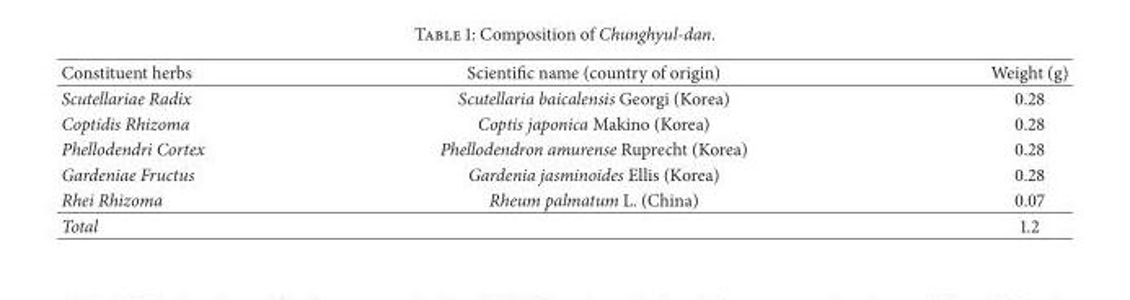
<table><thead><tr><td>Constituent herbs</td><td>Scientific name (country of origin)</td><td>Weight (g)</td></tr></thead><tbody><tr><td>Scutellariae Radix</td><td>Scutellaria baicalensis Georgi (Korea)</td><td>0.28</td></tr><tr><td>Coptidis Rhizoma</td><td>Coptis japonica Makino (Korea)</td><td>0.28</td></tr><tr><td>Phellodendri Cortex</td><td>Phellodendron amurense Ruprecht (Korea)</td><td>0.28</td></tr><tr><td>Gardeniae Fructus</td><td>Gardenia jasminoides Ellis (Korea)</td><td>0.28</td></tr><tr><td>Rhei Rhizoma</td><td>Rheum palmatum L. (China)</td><td>0.07</td></tr><tr><td>Total</td><td></td><td>1.2</td></tr></tbody></table>